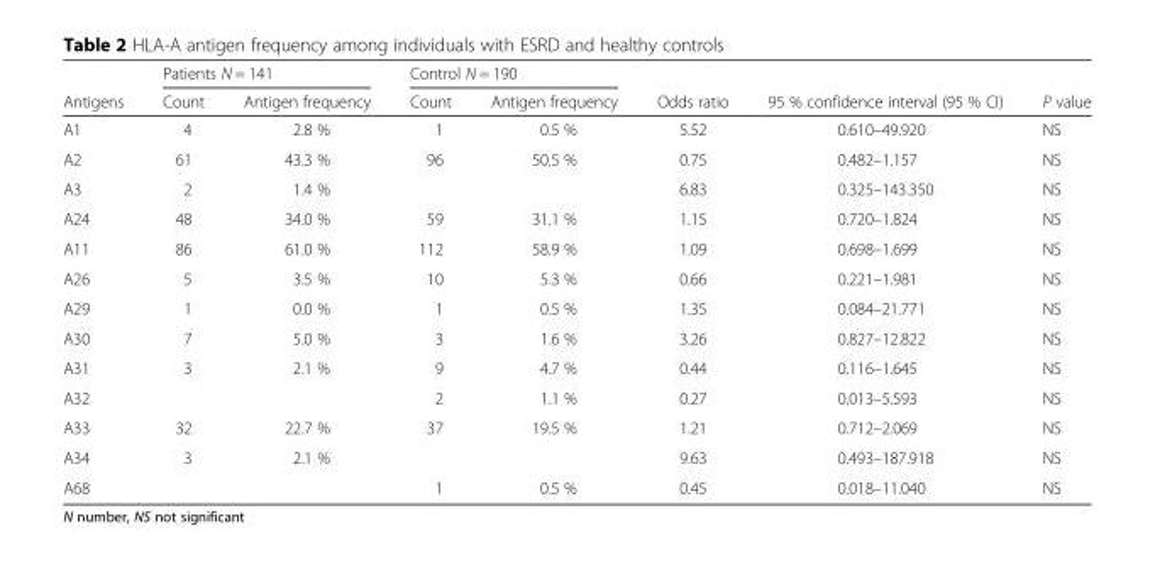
<table><thead><tr><td rowspan="2">Antigens</td><td colspan="2">Patients N = 141</td><td colspan="2">Control N = 190</td><td rowspan="2">Odds ratio</td><td rowspan="2">95 % confidence interval (95 % CI)</td><td rowspan="2">P value</td></tr><tr><td>Count</td><td>Antigen frequency</td><td>Count</td><td>Antigen frequency</td></tr></thead><tbody><tr><td>A1</td><td>4</td><td>2.8 %</td><td>1</td><td>0.5 %</td><td>5.52</td><td>0.610–49.920</td><td>NS</td></tr><tr><td>A2</td><td>61</td><td>43.3 %</td><td>96</td><td>50.5 %</td><td>0.75</td><td>0.482–1.157</td><td>NS</td></tr><tr><td>A3</td><td>2</td><td>1.4 %</td><td></td><td></td><td>6.83</td><td>0.325–143.350</td><td>NS</td></tr><tr><td>A24</td><td>48</td><td>34.0 %</td><td>59</td><td>31.1 %</td><td>1.15</td><td>0.720–1.824</td><td>NS</td></tr><tr><td>A11</td><td>86</td><td>61.0 %</td><td>112</td><td>58.9 %</td><td>1.09</td><td>0.698–1.699</td><td>NS</td></tr><tr><td>A26</td><td>5</td><td>3.5 %</td><td>10</td><td>5.3 %</td><td>0.66</td><td>0.221–1.981</td><td>NS</td></tr><tr><td>A29</td><td>1</td><td>0.0 %</td><td>1</td><td>0.5 %</td><td>1.35</td><td>0.084–21.771</td><td>NS</td></tr><tr><td>A30</td><td>7</td><td>5.0 %</td><td>3</td><td>1.6 %</td><td>3.26</td><td>0.827–12.822</td><td>NS</td></tr><tr><td>A31</td><td>3</td><td>2.1 %</td><td>9</td><td>4.7 %</td><td>0.44</td><td>0.116–1.645</td><td>NS</td></tr><tr><td>A32</td><td></td><td></td><td>2</td><td>1.1 %</td><td>0.27</td><td>0.013–5.593</td><td>NS</td></tr><tr><td>A33</td><td>32</td><td>22.7 %</td><td>37</td><td>19.5 %</td><td>1.21</td><td>0.712–2.069</td><td>NS</td></tr><tr><td>A34</td><td>3</td><td>2.1 %</td><td></td><td></td><td>9.63</td><td>0.493–187.918</td><td>NS</td></tr><tr><td>A68</td><td></td><td></td><td>1</td><td>0.5 %</td><td>0.45</td><td>0.018–11.040</td><td>NS</td></tr></tbody></table>